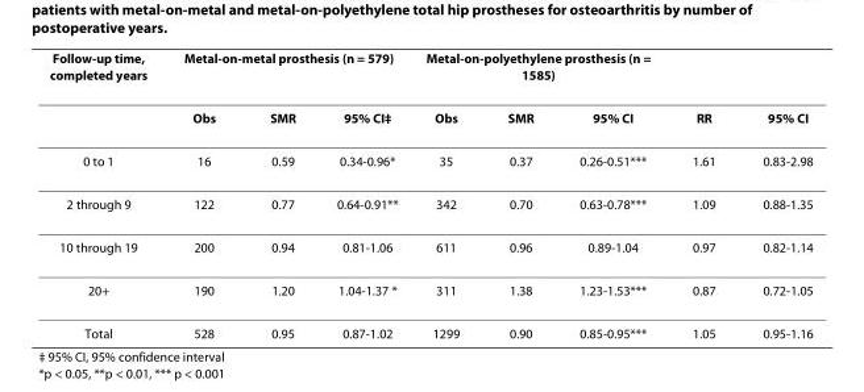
<table><thead><tr><td rowspan="2">Follow-up time, completed years</td><td colspan="3">Metal-on-metal prosthesis (n = 579)</td><td colspan="3">Metal-on-polyethylene prosthesis (n = 1585)</td><td rowspan="2">RR</td><td rowspan="2">95% CI</td></tr><tr><td>Obs</td><td>SMR</td><td>95% CI‡</td><td>Obs</td><td>SMR</td><td>95% CI</td></tr></thead><tbody><tr><td>0 to 1</td><td>16</td><td>0.59</td><td>0.34-0.96*</td><td>35</td><td>0.37</td><td>0.26-0.51***</td><td>1.61</td><td>0.83-2.98</td></tr><tr><td>2 through 9</td><td>122</td><td>0.77</td><td>0.64-0.91**</td><td>342</td><td>0.70</td><td>0.63-0.78***</td><td>1.09</td><td>0.88-1.35</td></tr><tr><td>10 through 19</td><td>200</td><td>0.94</td><td>0.81-1.06</td><td>611</td><td>0.96</td><td>0.89-1.04</td><td>0.97</td><td>0.82-1.14</td></tr><tr><td>20+</td><td>190</td><td>1.20</td><td>1.04-1.37 *</td><td>311</td><td>1.38</td><td>1.23-1.53***</td><td>0.87</td><td>0.72-1.05</td></tr><tr><td>Total</td><td>528</td><td>0.95</td><td>0.87-1.02</td><td>1299</td><td>0.90</td><td>0.85-0.95***</td><td>1.05</td><td>0.95-1.16</td></tr></tbody></table>